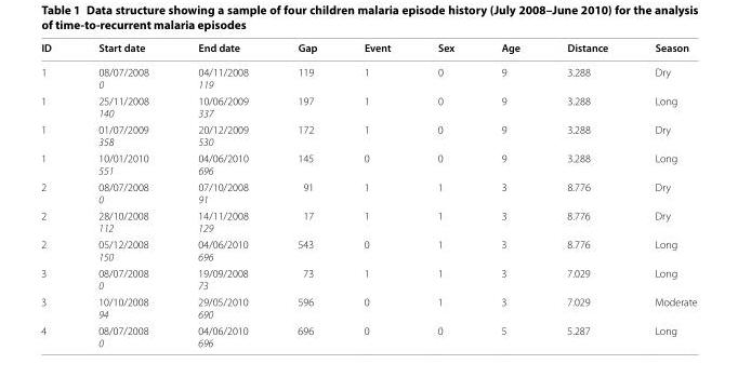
<table><thead><tr><td>ID</td><td>Start date</td><td>End date</td><td>Gap</td><td>Event</td><td>Sex</td><td>Age</td><td>Distance</td><td>Season</td></tr></thead><tbody><tr><td>1</td><td>08/07/2008 0</td><td>04/11/2008 119</td><td>119</td><td>1</td><td>0</td><td>9</td><td>3.288</td><td>Dry</td></tr><tr><td>1</td><td>25/11/2008 140</td><td>10/06/2009 337</td><td>197</td><td>1</td><td>0</td><td>9</td><td>3.288</td><td>Long</td></tr><tr><td>1</td><td>01/07/2009 358</td><td>20/12/2009 530</td><td>172</td><td>1</td><td>0</td><td>9</td><td>3.288</td><td>Dry</td></tr><tr><td>1</td><td>10/01/2010 551</td><td>04/06/2010 696</td><td>145</td><td>0</td><td>0</td><td>9</td><td>3.288</td><td>Long</td></tr><tr><td>2</td><td>08/07/2008 0</td><td>07/10/2008 91</td><td>91</td><td>1</td><td>1</td><td>3</td><td>8.776</td><td>Dry</td></tr><tr><td>2</td><td>28/10/2008 112</td><td>14/11/2008 129</td><td>17</td><td>1</td><td>1</td><td>3</td><td>8.776</td><td>Dry</td></tr><tr><td>2</td><td>05/12/2008 150</td><td>04/06/2010 696</td><td>543</td><td>0</td><td>1</td><td>3</td><td>8.776</td><td>Long</td></tr><tr><td>3</td><td>08/07/2008 0</td><td>19/09/2008 73</td><td>73</td><td>1</td><td>1</td><td>3</td><td>7.029</td><td>Long</td></tr><tr><td>3</td><td>10/10/2008 94</td><td>29/05/2010 690</td><td>596</td><td>0</td><td>1</td><td>3</td><td>7.029</td><td>Moderate</td></tr><tr><td>4</td><td>08/07/2008 0</td><td>04/06/2010 696</td><td>696</td><td>0</td><td>0</td><td>5</td><td>5.287</td><td>Long</td></tr></tbody></table>